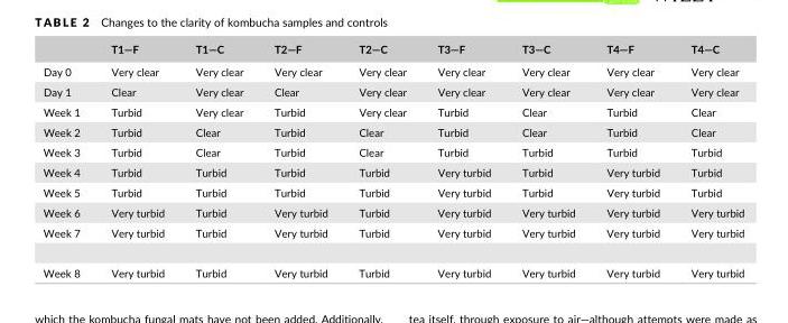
<table><thead><tr><td></td><td>T1—F</td><td>T1—C</td><td>T2—F</td><td>T2—C</td><td>T3—F</td><td>T3—C</td><td>T4—F</td><td>T4—C</td></tr></thead><tbody><tr><td>Day 0</td><td>Very clear</td><td>Very clear</td><td>Very clear</td><td>Very clear</td><td>Very clear</td><td>Very clear</td><td>Very clear</td><td>Very clear</td></tr><tr><td>Day 1</td><td>Clear</td><td>Very clear</td><td>Clear</td><td>Very clear</td><td>Very clear</td><td>Very clear</td><td>Very clear</td><td>Very clear</td></tr><tr><td>Week 1</td><td>Turbid</td><td>Very clear</td><td>Turbid</td><td>Very clear</td><td>Turbid</td><td>Clear</td><td>Turbid</td><td>Clear</td></tr><tr><td>Week 2</td><td>Turbid</td><td>Clear</td><td>Turbid</td><td>Clear</td><td>Turbid</td><td>Clear</td><td>Turbid</td><td>Clear</td></tr><tr><td>Week 3</td><td>Turbid</td><td>Clear</td><td>Turbid</td><td>Clear</td><td>Turbid</td><td>Turbid</td><td>Turbid</td><td>Turbid</td></tr><tr><td>Week 4</td><td>Turbid</td><td>Turbid</td><td>Turbid</td><td>Turbid</td><td>Very turbid</td><td>Turbid</td><td>Very turbid</td><td>Turbid</td></tr><tr><td>Week 5</td><td>Turbid</td><td>Turbid</td><td>Turbid</td><td>Turbid</td><td>Very turbid</td><td>Turbid</td><td>Very turbid</td><td>Turbid</td></tr><tr><td>Week 6</td><td>Very turbid</td><td>Turbid</td><td>Very turbid</td><td>Turbid</td><td>Very turbid</td><td>Very turbid</td><td>Very turbid</td><td>Very turbid</td></tr><tr><td>Week 7</td><td>Very turbid</td><td>Turbid</td><td>Very turbid</td><td>Turbid</td><td>Very turbid</td><td>Very turbid</td><td>Very turbid</td><td>Very turbid</td></tr><tr><td>Week 8</td><td>Very turbid</td><td>Turbid</td><td>Very turbid</td><td>Turbid</td><td>Very turbid</td><td>Very turbid</td><td>Very turbid</td><td>Very turbid</td></tr></tbody></table>